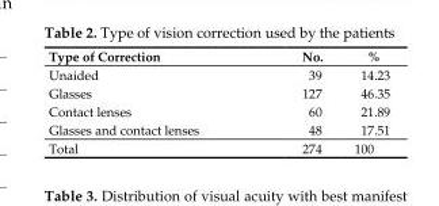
<table><thead><tr><td>Type of Correction</td><td>No.</td><td>%</td></tr></thead><tbody><tr><td>Unaided</td><td>39</td><td>14.23</td></tr><tr><td>Glasses</td><td>127</td><td>46.35</td></tr><tr><td>Contact lenses</td><td>60</td><td>21.89</td></tr><tr><td>Glasses and contact lenses</td><td>48</td><td>17.51</td></tr><tr><td>Total</td><td>274</td><td>100</td></tr></tbody></table>